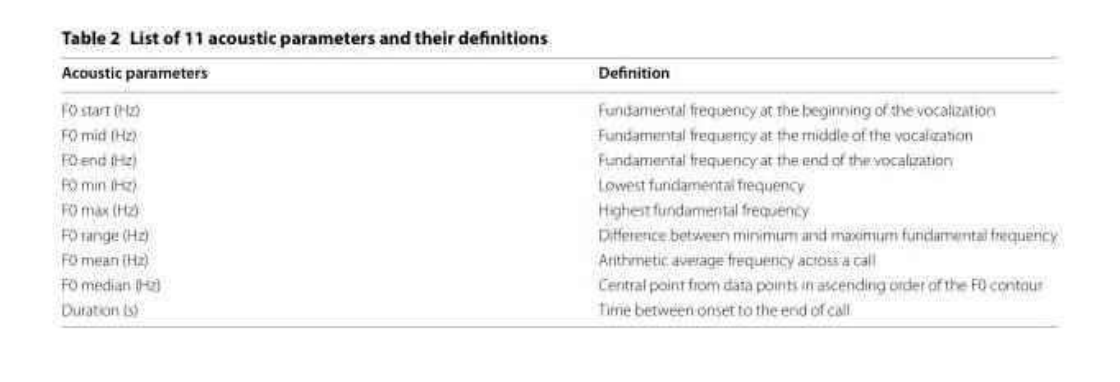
<table><thead><tr><td>Acoustic parameters</td><td>Definition</td></tr></thead><tbody><tr><td>F0 start (Hz)</td><td>Fundamental frequency at the beginning of the vocalization</td></tr><tr><td>F0 mid (Hz)</td><td>Fundamental frequency at the middle of the vocalization</td></tr><tr><td>F0 end (Hz)</td><td>Fundamental frequency at the end of the vocalization</td></tr><tr><td>F0 min (Hz)</td><td>Lowest fundamental frequency</td></tr><tr><td>F0 max (Hz)</td><td>Highest fundamental frequency</td></tr><tr><td>F0 range (Hz)</td><td>Difference between minimum and maximum fundamental frequency</td></tr><tr><td>F0 mean (Hz)</td><td>Arithmetic average frequency across a call</td></tr><tr><td>F0 median (Hz)</td><td>Central point from data points in ascending order of the F0 contour</td></tr><tr><td>Duration (s)</td><td>Time between onset to the end of call</td></tr></tbody></table>